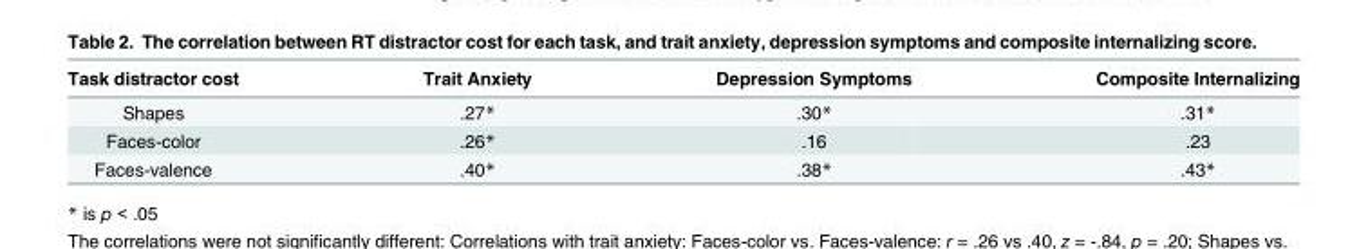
<table><thead><tr><td>Task distractor cost</td><td>Trait Anxiety</td><td>Depression Symptoms</td><td>Composite Internalizing</td></tr></thead><tbody><tr><td>Shapes</td><td>.27*</td><td>.30*</td><td>.31*</td></tr><tr><td>Faces-color</td><td>.26*</td><td>.16</td><td>.23</td></tr><tr><td>Faces-valence</td><td>.40*</td><td>.38*</td><td>.43*</td></tr></tbody></table>